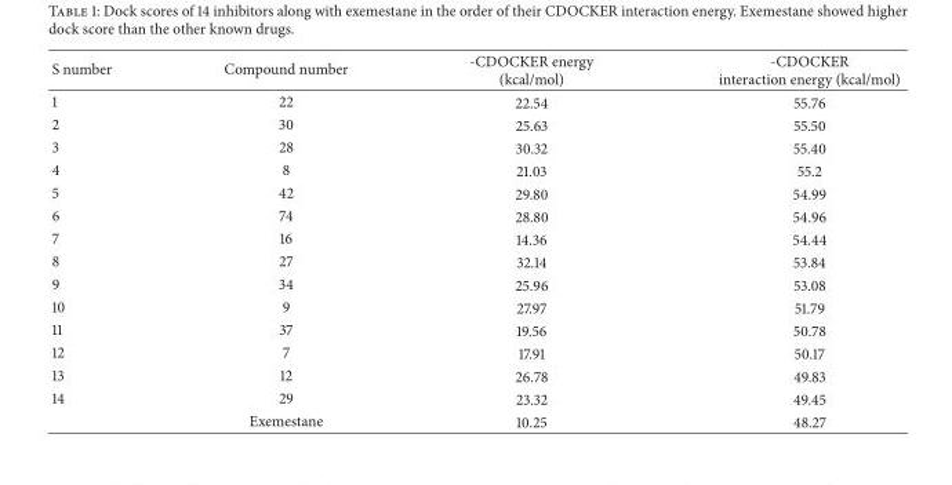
<table><thead><tr><td>S number</td><td>Compound number</td><td>-CDOCKER energy (kcal/mol)</td><td>-CDOCKER interaction energy (kcal/mol)</td></tr></thead><tbody><tr><td>1</td><td>22</td><td>22.54</td><td>55.76</td></tr><tr><td>2</td><td>30</td><td>25.63</td><td>55.50</td></tr><tr><td>3</td><td>28</td><td>30.32</td><td>55.40</td></tr><tr><td>4</td><td>8</td><td>21.03</td><td>55.2</td></tr><tr><td>5</td><td>42</td><td>29.80</td><td>54.99</td></tr><tr><td>6</td><td>74</td><td>28.80</td><td>54.96</td></tr><tr><td>7</td><td>16</td><td>14.36</td><td>54.44</td></tr><tr><td>8</td><td>27</td><td>32.14</td><td>53.84</td></tr><tr><td>9</td><td>34</td><td>25.96</td><td>53.08</td></tr><tr><td>10</td><td>9</td><td>27.97</td><td>51.79</td></tr><tr><td>11</td><td>37</td><td>19.56</td><td>50.78</td></tr><tr><td>12</td><td>7</td><td>17.91</td><td>50.17</td></tr><tr><td>13</td><td>12</td><td>26.78</td><td>49.83</td></tr><tr><td rowspan="2">14</td><td>29</td><td>23.32</td><td>49.45</td></tr><tr><td>Exemestane</td><td>10.25</td><td>48.27</td></tr></tbody></table>